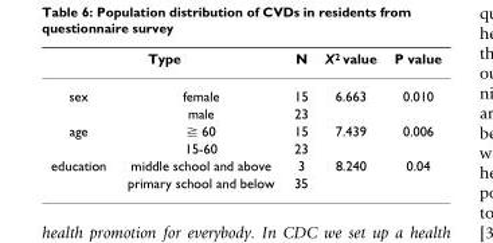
<table><thead><tr><td colspan="2">Type</td><td rowspan="2">N 15</td><td rowspan="2">X<sup>2</sup> value 6.663</td><td rowspan="2">P value 0.010</td></tr><tr><td>sex</td><td>female</td></tr></thead><tbody><tr><td></td><td>male</td><td>23</td><td></td><td></td></tr><tr><td rowspan="2">age</td><td>≧ 60</td><td>15</td><td>7.439</td><td>0.006</td></tr><tr><td>15-60</td><td>23</td><td></td><td></td></tr><tr><td rowspan="2">education</td><td>middle school and above</td><td>3</td><td>8.240</td><td>0.04</td></tr><tr><td>primary school and below</td><td>35</td><td></td><td></td></tr></tbody></table>